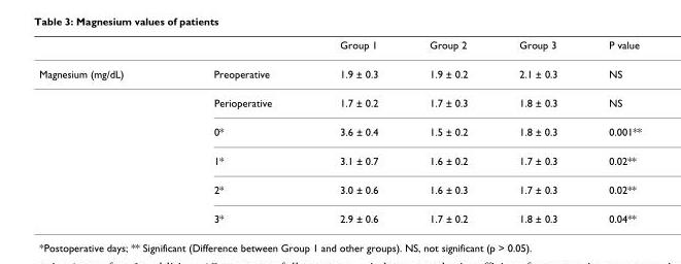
<table><thead><tr><td></td><td></td><td>Group 1</td><td>Group 2</td><td>Group 3</td><td>P value</td></tr></thead><tbody><tr><td rowspan="6">Magnesium (mg/dL)</td><td>Preoperative</td><td>1.9 ± 0.3</td><td>1.9 ± 0.2</td><td>2.1 ± 0.3</td><td>NS</td></tr><tr><td>Perioperative</td><td>1.7 ± 0.2</td><td>1.7 ± 0.3</td><td>1.8 ± 0.3</td><td>NS</td></tr><tr><td>0*</td><td>3.6 ± 0.4</td><td>1.5 ± 0.2</td><td>1.8 ± 0.3</td><td>0.001**</td></tr><tr><td>1*</td><td>3.1 ± 0.7</td><td>1.6 ± 0.2</td><td>1.7 ± 0.3</td><td>0.02**</td></tr><tr><td>2*</td><td>3.0 ± 0.6</td><td>1.6 ± 0.3</td><td>1.7 ± 0.3</td><td>0.02**</td></tr><tr><td>3*</td><td>2.9 ± 0.6</td><td>1.7 ± 0.2</td><td>1.8 ± 0.3</td><td>0.04**</td></tr></tbody></table>